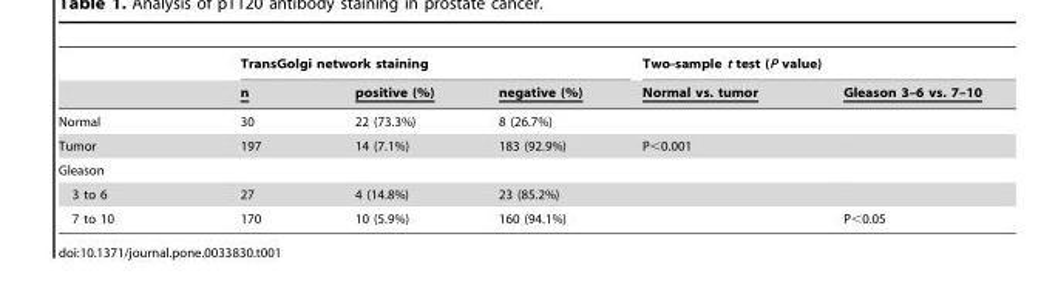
<table><thead><tr><td rowspan="2"></td><td colspan="3">TransGolgi network staining</td><td colspan="2">Two-sample t test (P value)</td></tr><tr><td>n</td><td>positive (%)</td><td>negative (%)</td><td>Normal vs. tumor</td><td>Gleason 3–6 vs. 7–10</td></tr></thead><tbody><tr><td>Normal</td><td>30</td><td>22 (73.3%)</td><td>8 (26.7%)</td><td></td><td></td></tr><tr><td>Tumor</td><td>197</td><td>14 (7.1%)</td><td>183 (92.9%)</td><td>P&lt;0.001</td><td></td></tr><tr><td colspan="6">Gleason</td></tr><tr><td>3 to 6</td><td>27</td><td>4 (14.8%)</td><td>23 (85.2%)</td><td></td><td></td></tr><tr><td>7 to 10</td><td>170</td><td>10 (5.9%)</td><td>160 (94.1%)</td><td></td><td>P&lt;0.05</td></tr></tbody></table>